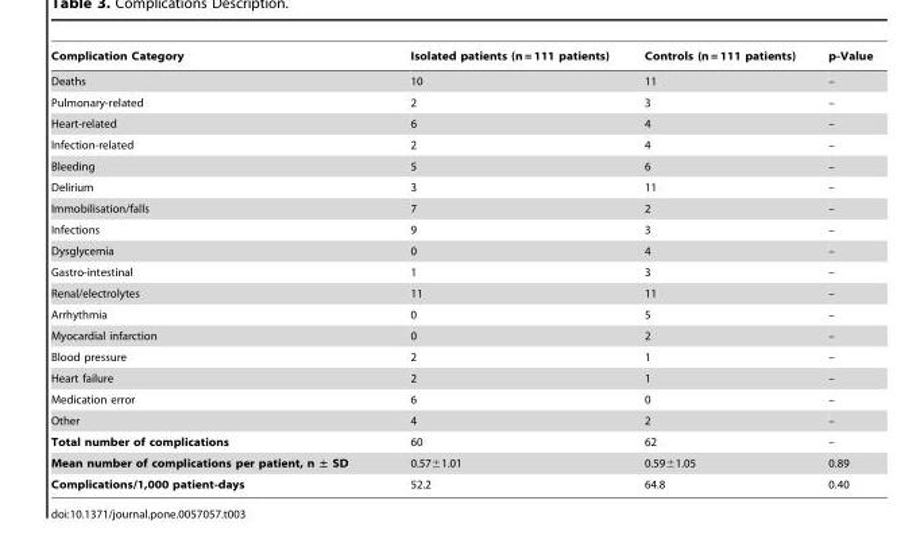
<table><thead><tr><td>Complication Category</td><td>Isolated patients (n = 111 patients)</td><td>Controls (n = 111 patients)</td><td>p-Value</td></tr></thead><tbody><tr><td>Deaths</td><td>10</td><td>11</td><td>–</td></tr><tr><td>Pulmonary-related</td><td>2</td><td>3</td><td>–</td></tr><tr><td>Heart-related</td><td>6</td><td>4</td><td>–</td></tr><tr><td>Infection-related</td><td>2</td><td>4</td><td>–</td></tr><tr><td>Bleeding</td><td>5</td><td>6</td><td>–</td></tr><tr><td>Delirium</td><td>3</td><td>11</td><td>–</td></tr><tr><td>Immobilisation/falls</td><td>7</td><td>2</td><td>–</td></tr><tr><td>Infections</td><td>9</td><td>3</td><td>–</td></tr><tr><td>Dysglycemia</td><td>0</td><td>4</td><td>–</td></tr><tr><td>Gastro-intestinal</td><td>1</td><td>3</td><td>–</td></tr><tr><td>Renal/electrolytes</td><td>11</td><td>11</td><td>–</td></tr><tr><td>Arrhythmia</td><td>0</td><td>5</td><td>–</td></tr><tr><td>Myocardial infarction</td><td>0</td><td>2</td><td>–</td></tr><tr><td>Blood pressure</td><td>2</td><td>1</td><td>–</td></tr><tr><td>Heart failure</td><td>2</td><td>1</td><td>–</td></tr><tr><td>Medication error</td><td>6</td><td>0</td><td>–</td></tr><tr><td>Other</td><td>4</td><td>2</td><td>–</td></tr><tr><td>Total number of complications</td><td>60</td><td>62</td><td>–</td></tr><tr><td>Mean number of complications per patient, n ± SD</td><td>0.57±1.01</td><td>0.59±1.05</td><td>0.89</td></tr><tr><td>Complications/1,000 patient-days</td><td>52.2</td><td>64.8</td><td>0.40</td></tr></tbody></table>